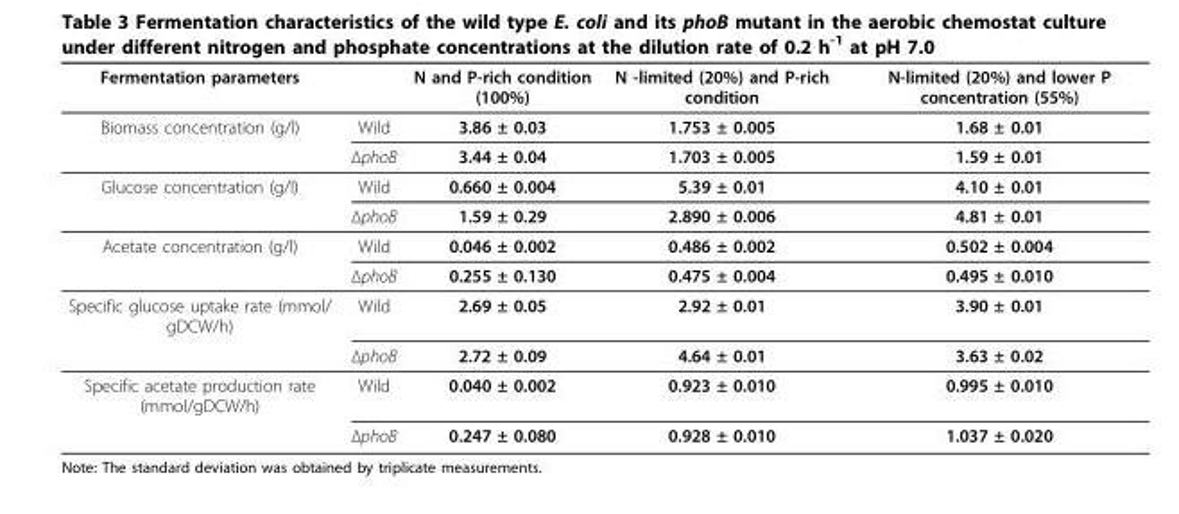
<table><thead><tr><td>Fermentation parameters</td><td></td><td>N and P-rich condition (100%)</td><td>N -limited (20%) and P-rich condition</td><td>N-limited (20%) and lower P concentration (55%)</td></tr></thead><tbody><tr><td rowspan="2">Biomass concentration (g/l)</td><td>Wild</td><td>3.86 ± 0.03</td><td>1.753 ± 0.005</td><td>1.68 ± 0.01</td></tr><tr><td>ΔphoB</td><td>3.44 ± 0.04</td><td>1.703 ± 0.005</td><td>1.59 ± 0.01</td></tr><tr><td rowspan="2">Glucose concentration (g/l)</td><td>Wild</td><td>0.660 ± 0.004</td><td>5.39 ± 0.01</td><td>4.10 ± 0.01</td></tr><tr><td>ΔphoB</td><td>1.59 ± 0.29</td><td>2.890 ± 0.006</td><td>4.81 ± 0.01</td></tr><tr><td rowspan="2">Acetate concentration (g/l)</td><td>Wild</td><td>0.046 ± 0.002</td><td>0.486 ± 0.002</td><td>0.502 ± 0.004</td></tr><tr><td>ΔphoB</td><td>0.255 ± 0.130</td><td>0.475 ± 0.004</td><td>0.495 ± 0.010</td></tr><tr><td rowspan="2">Specific glucose uptake rate (mmol/ gDCW/h)</td><td>Wild</td><td>2.69 ± 0.05</td><td>2.92 ± 0.01</td><td>3.90 ± 0.01</td></tr><tr><td>ΔphoB</td><td>2.72 ± 0.09</td><td>4.64 ± 0.01</td><td>3.63 ± 0.02</td></tr><tr><td rowspan="2">Specific acetate production rate (mmol/gDCW/h)</td><td>Wild</td><td>0.040 ± 0.002</td><td>0.923 ± 0.010</td><td>0.995 ± 0.010</td></tr><tr><td>ΔphoB</td><td>0.247 ± 0.080</td><td>0.928 ± 0.010</td><td>1.037 ± 0.020</td></tr></tbody></table>